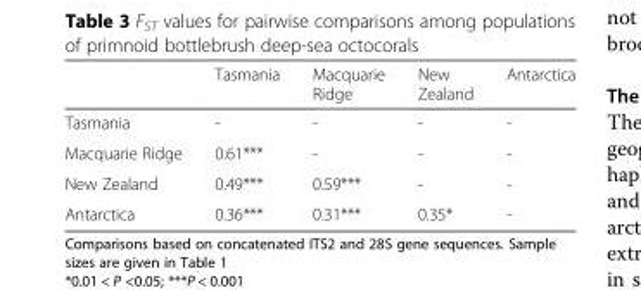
<table><thead><tr><td></td><td>Tasmania</td><td>Macquarie Ridge</td><td>New Zealand</td><td>Antarctica</td></tr></thead><tbody><tr><td>Tasmania</td><td>-</td><td>-</td><td>-</td><td>-</td></tr><tr><td>Macquarie Ridge</td><td>0.61***</td><td>-</td><td>-</td><td>-</td></tr><tr><td>New Zealand</td><td>0.49***</td><td>0.59***</td><td>-</td><td>-</td></tr><tr><td>Antarctica</td><td>0.36***</td><td>0.31***</td><td>0.35*</td><td>-</td></tr></tbody></table>